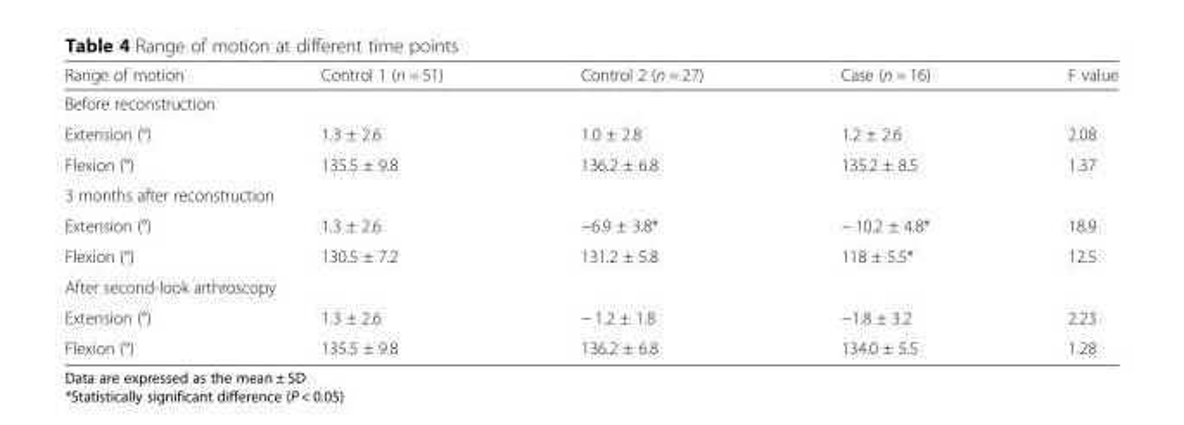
<table><thead><tr><td>Range of motion</td><td>Control 1 (n = 51)</td><td>Control 2 (n = 27)</td><td>Case (n = 16)</td><td>F value</td></tr></thead><tbody><tr><td colspan="5">Before reconstruction</td></tr><tr><td>Extension (°)</td><td>1.3 ± 2.6</td><td>1.0 ± 2.8</td><td>1.2 ± 2.6</td><td>2.08</td></tr><tr><td>Flexion (°)</td><td>135.5 ± 9.8</td><td>136.2 ± 6.8</td><td>135.2 ± 8.5</td><td>1.37</td></tr><tr><td colspan="5">3 months after reconstruction</td></tr><tr><td>Extension (°)</td><td>1.3 ± 2.6</td><td>−6.9 ± 3.8*</td><td>− 10.2 ± 4.8*</td><td>18.9</td></tr><tr><td>Flexion (°)</td><td>130.5 ± 7.2</td><td>131.2 ± 5.8</td><td>118 ± 5.5*</td><td>12.5</td></tr><tr><td colspan="5">After second-look arthroscopy</td></tr><tr><td>Extension (°)</td><td>1.3 ± 2.6</td><td>− 1.2 ± 1.8</td><td>−1.8 ± 3.2</td><td>2.23</td></tr><tr><td>Flexion (°)</td><td>135.5 ± 9.8</td><td>136.2 ± 6.8</td><td>134.0 ± 5.5</td><td>1.28</td></tr></tbody></table>